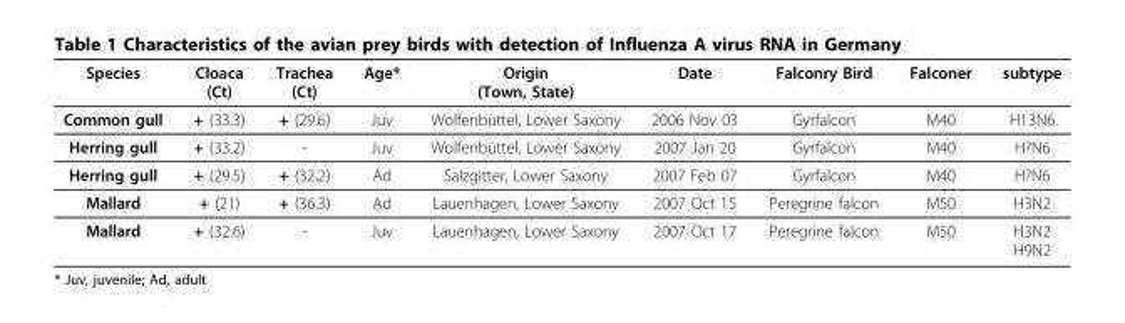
<table><thead><tr><td>Species</td><td>Cloaca (Ct)</td><td>Trachea (Ct)</td><td>Age*</td><td>Origin (Town, State)</td><td>Date</td><td>Falconry Bird</td><td>Falconer</td><td>subtype</td></tr></thead><tbody><tr><td>Common gull</td><td>+ (33.3)</td><td>+ (29.6)</td><td>Juv</td><td>Wolfenbüttel, Lower Saxony</td><td>2006 Nov 03</td><td>Gyrfalcon</td><td>M40</td><td>H13N6</td></tr><tr><td>Herring gull</td><td>+ (33.2)</td><td>-</td><td>Juv</td><td>Wolfenbüttel, Lower Saxony</td><td>2007 Jan 20</td><td>Gyrfalcon</td><td>M40</td><td>H?N6</td></tr><tr><td>Herring gull</td><td>+ (29.5)</td><td>+ (32.2)</td><td>Ad</td><td>Salzgitter, Lower Saxony</td><td>2007 Feb 07</td><td>Gyrfalcon</td><td>M40</td><td>H?N6</td></tr><tr><td>Mallard</td><td>+ (21)</td><td>+ (36.3)</td><td>Ad</td><td>Lauenhagen, Lower Saxony</td><td>2007 Oct 15</td><td>Peregrine falcon</td><td>M50</td><td>H3N2</td></tr><tr><td>Mallard</td><td>+ (32.6)</td><td>-</td><td>Juv</td><td>Lauenhagen, Lower Saxony</td><td>2007 Oct 17</td><td>Peregrine falcon</td><td>M50</td><td>H3N2 H9N2</td></tr></tbody></table>